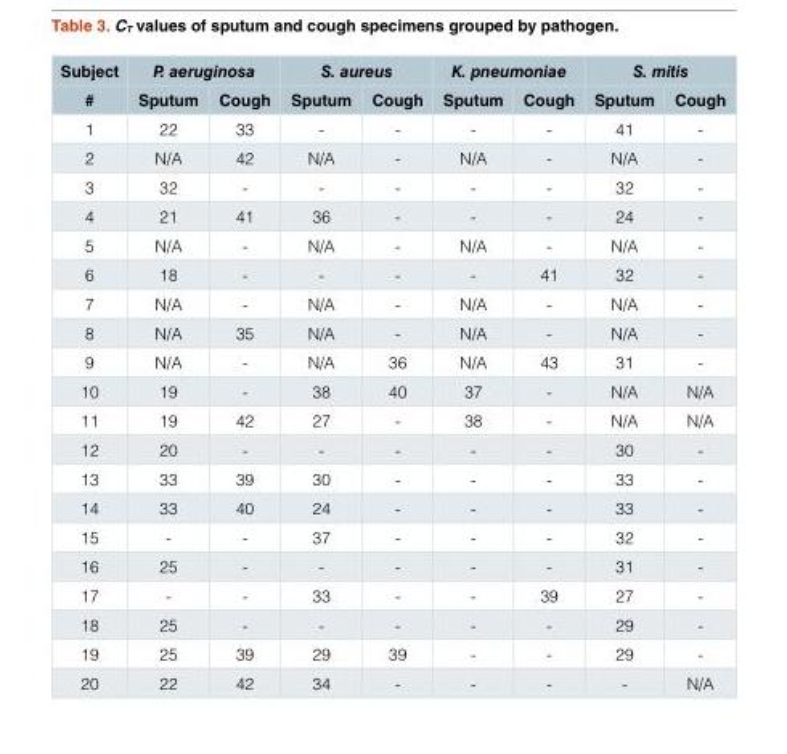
<table><thead><tr><td rowspan="2">Subject #</td><td colspan="2">P. aeruginosa</td><td colspan="2">S. aureus</td><td colspan="2">K. pneumoniae</td><td colspan="2">S. mitis</td></tr><tr><td>Sputum</td><td>Cough</td><td>Sputum</td><td>Cough</td><td>Sputum</td><td>Cough</td><td>Sputum</td><td>Cough</td></tr></thead><tbody><tr><td>1</td><td>22</td><td>33</td><td>-</td><td>-</td><td>-</td><td>-</td><td>41</td><td>-</td></tr><tr><td>2</td><td>N/A</td><td>42</td><td>N/A</td><td>-</td><td>N/A</td><td>-</td><td>N/A</td><td>-</td></tr><tr><td>3</td><td>32</td><td>-</td><td>-</td><td>-</td><td>-</td><td>-</td><td>32</td><td>-</td></tr><tr><td>4</td><td>21</td><td>41</td><td>36</td><td>-</td><td>-</td><td>-</td><td>24</td><td>-</td></tr><tr><td>5</td><td>N/A</td><td>-</td><td>N/A</td><td>-</td><td>N/A</td><td>-</td><td>N/A</td><td>-</td></tr><tr><td>6</td><td>18</td><td>-</td><td>-</td><td>-</td><td>-</td><td>41</td><td>32</td><td>-</td></tr><tr><td>7</td><td>N/A</td><td>-</td><td>N/A</td><td>-</td><td>N/A</td><td>-</td><td>N/A</td><td>-</td></tr><tr><td>8</td><td>N/A</td><td>35</td><td>N/A</td><td>-</td><td>N/A</td><td>-</td><td>N/A</td><td>-</td></tr><tr><td>9</td><td>N/A</td><td>-</td><td>N/A</td><td>36</td><td>N/A</td><td>43</td><td>31</td><td>-</td></tr><tr><td>10</td><td>19</td><td>-</td><td>38</td><td>40</td><td>37</td><td>-</td><td>N/A</td><td>N/A</td></tr><tr><td>11</td><td>19</td><td>42</td><td>27</td><td>-</td><td>38</td><td>-</td><td>N/A</td><td>N/A</td></tr><tr><td>12</td><td>20</td><td>-</td><td>-</td><td>-</td><td>-</td><td>-</td><td>30</td><td>-</td></tr><tr><td>13</td><td>33</td><td>39</td><td>30</td><td>-</td><td>-</td><td>-</td><td>33</td><td>-</td></tr><tr><td>14</td><td>33</td><td>40</td><td>24</td><td>-</td><td>-</td><td>-</td><td>33</td><td>-</td></tr><tr><td>15</td><td>-</td><td>-</td><td>37</td><td>-</td><td>-</td><td>-</td><td>32</td><td>-</td></tr><tr><td>16</td><td>25</td><td>-</td><td>-</td><td>-</td><td>-</td><td>-</td><td>31</td><td>-</td></tr><tr><td>17</td><td>-</td><td>-</td><td>33</td><td>-</td><td>-</td><td>39</td><td>27</td><td>-</td></tr><tr><td>18</td><td>25</td><td>-</td><td>-</td><td>-</td><td>-</td><td>-</td><td>29</td><td>-</td></tr><tr><td>19</td><td>25</td><td>39</td><td>29</td><td>39</td><td>-</td><td>-</td><td>29</td><td>-</td></tr><tr><td>20</td><td>22</td><td>42</td><td>34</td><td>-</td><td>-</td><td>-</td><td>-</td><td>N/A</td></tr></tbody></table>